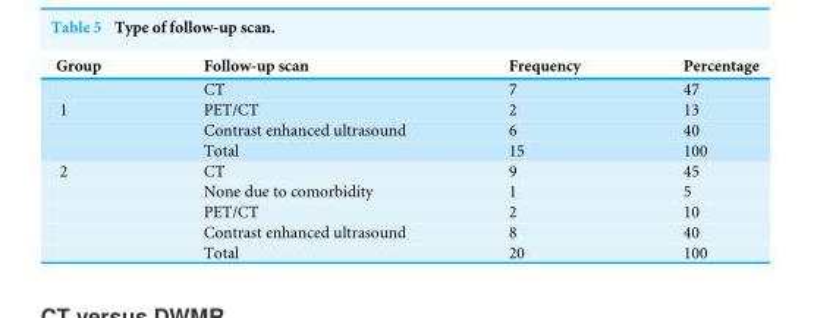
<table><thead><tr><td>Group</td><td>Follow-up scan</td><td>Frequency</td><td>Percentage</td></tr></thead><tbody><tr><td></td><td>CT</td><td>7</td><td>47</td></tr><tr><td rowspan="3">1</td><td>PET/CT</td><td>2</td><td>13</td></tr><tr><td>Contrast enhanced ultrasound</td><td>6</td><td>40</td></tr><tr><td>Total</td><td>15</td><td>100</td></tr><tr><td rowspan="5">2</td><td>CT</td><td>9</td><td>45</td></tr><tr><td>None due to comorbidity</td><td>1</td><td>5</td></tr><tr><td>PET/CT</td><td>2</td><td>10</td></tr><tr><td>Contrast enhanced ultrasound</td><td>8</td><td>40</td></tr><tr><td>Total</td><td>20</td><td>100</td></tr></tbody></table>